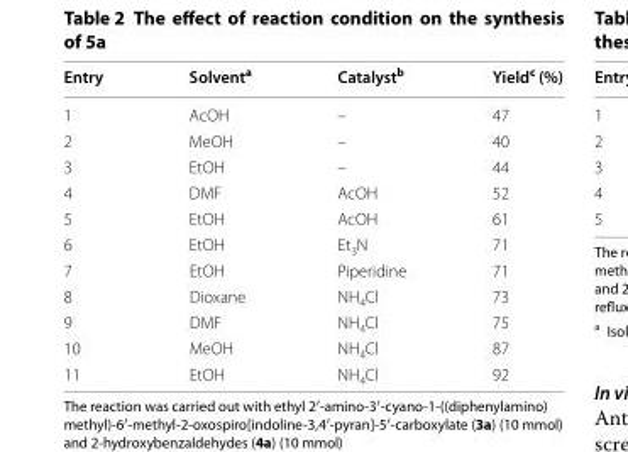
<table><thead><tr><td>Entry</td><td>Solvent<sup>a</sup></td><td>Catalyst<sup>b</sup></td><td>Yield<sup>c</sup> (%)</td></tr></thead><tbody><tr><td>1</td><td>AcOH</td><td>–</td><td>47</td></tr><tr><td>2</td><td>MeOH</td><td>–</td><td>40</td></tr><tr><td>3</td><td>EtOH</td><td>–</td><td>44</td></tr><tr><td>4</td><td>DMF</td><td>AcOH</td><td>52</td></tr><tr><td>5</td><td>EtOH</td><td>AcOH</td><td>61</td></tr><tr><td>6</td><td>EtOH</td><td>Et<sub>3</sub>N</td><td>71</td></tr><tr><td>7</td><td>EtOH</td><td>Piperidine</td><td>71</td></tr><tr><td>8</td><td>Dioxane</td><td>NH<sub>4</sub>Cl</td><td>73</td></tr><tr><td>9</td><td>DMF</td><td>NH<sub>4</sub>Cl</td><td>75</td></tr><tr><td>10</td><td>MeOH</td><td>NH<sub>4</sub>Cl</td><td>87</td></tr><tr><td>11</td><td>EtOH</td><td>NH<sub>4</sub>Cl</td><td>92</td></tr></tbody></table>